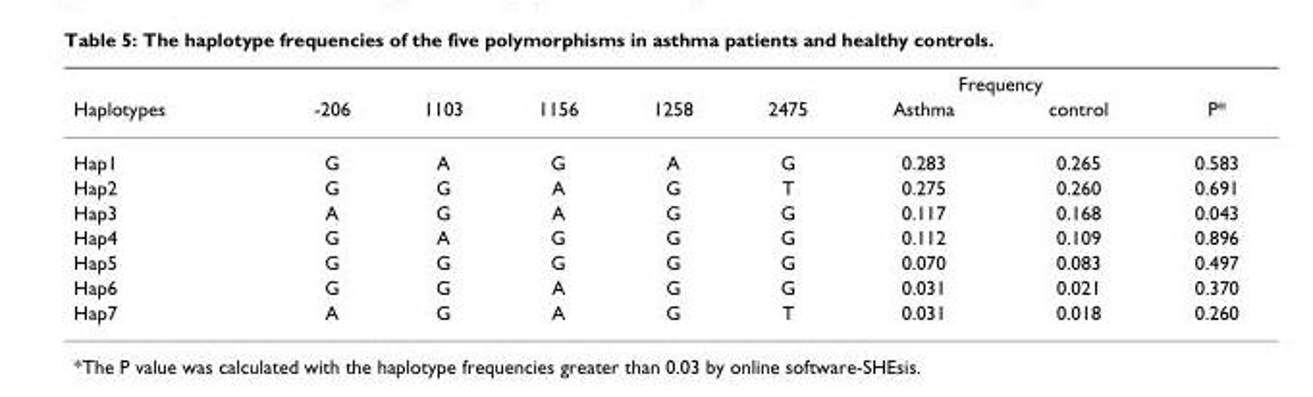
<table><thead><tr><td rowspan="2">Haplotypes</td><td rowspan="2">-206</td><td rowspan="2">1103</td><td rowspan="2">1156</td><td rowspan="2">1258</td><td rowspan="2">2475</td><td colspan="2">Frequency</td><td rowspan="2">P*</td></tr><tr><td>Asthma</td><td>control</td></tr></thead><tbody><tr><td>Hap1</td><td>G</td><td>A</td><td>G</td><td>A</td><td>G</td><td>0.283</td><td>0.265</td><td>0.583</td></tr><tr><td>Hap2</td><td>G</td><td>G</td><td>A</td><td>G</td><td>T</td><td>0.275</td><td>0.260</td><td>0.691</td></tr><tr><td>Hap3</td><td>A</td><td>G</td><td>A</td><td>G</td><td>G</td><td>0.117</td><td>0.168</td><td>0.043</td></tr><tr><td>Hap4</td><td>G</td><td>A</td><td>G</td><td>G</td><td>G</td><td>0.112</td><td>0.109</td><td>0.896</td></tr><tr><td>Hap5</td><td>G</td><td>G</td><td>G</td><td>G</td><td>G</td><td>0.070</td><td>0.083</td><td>0.497</td></tr><tr><td>Hap6</td><td>G</td><td>G</td><td>A</td><td>G</td><td>G</td><td>0.031</td><td>0.021</td><td>0.370</td></tr><tr><td>Hap7</td><td>A</td><td>G</td><td>A</td><td>G</td><td>T</td><td>0.031</td><td>0.018</td><td>0.260</td></tr></tbody></table>